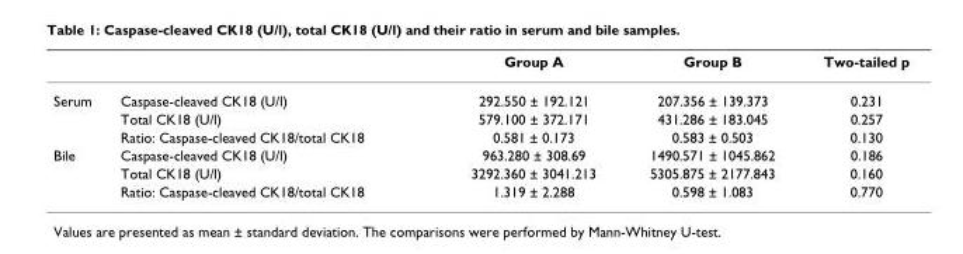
<table><thead><tr><td></td><td></td><td>Group A</td><td>Group B</td><td>Two-tailed p</td></tr></thead><tbody><tr><td rowspan="3">Serum</td><td>Caspase-cleaved CK18 (U/l)</td><td>292.550 ± 192.121</td><td>207.356 ± 139.373</td><td>0.231</td></tr><tr><td>Total CK18 (U/l)</td><td>579.100 ± 372.171</td><td>431.286 ± 183.045</td><td>0.257</td></tr><tr><td>Ratio: Caspase-cleaved CK18/total CK18</td><td>0.581 ± 0.173</td><td>0.583 ± 0.503</td><td>0.130</td></tr><tr><td rowspan="3">Bile</td><td>Caspase-cleaved CK18 (U/l)</td><td>963.280 ± 308.69</td><td>1490.571 ± 1045.862</td><td>0.186</td></tr><tr><td>Total CK18 (U/l)</td><td>3292.360 ± 3041.213</td><td>5305.875 ± 2177.843</td><td>0.160</td></tr><tr><td>Ratio: Caspase-cleaved CK18/total CK18</td><td>1.319 ± 2.288</td><td>0.598 ± 1.083</td><td>0.770</td></tr></tbody></table>